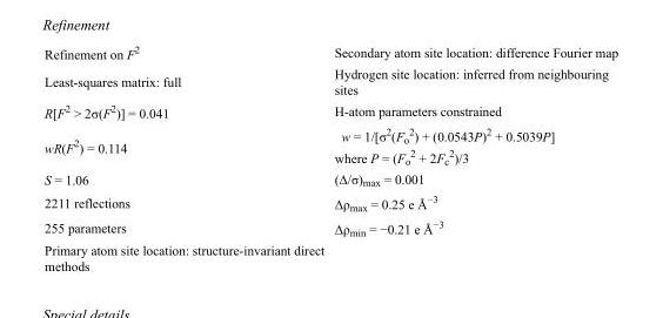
<table><tbody><tr><td>Refinement on F<sup>2</sup></td><td>Secondary atom site location: difference Fourier map</td></tr><tr><td>Least-squares matrix: full</td><td>Hydrogen site location: inferred from neighbouring sites</td></tr><tr><td>R[F<sup>2</sup> &gt; 2σ(F<sup>2</sup>)] = 0.041</td><td>H-atom parameters constrained</td></tr><tr><td>wR(F<sup>2</sup>) = 0.114</td><td>w = 1/[σ<sup>2</sup>(F<sub>o</sub> <sup>2</sup>) + (0.0543P)<sup>2</sup> + 0.5039P] where P = (F<sub>o</sub> <sup>2</sup> + 2F<sub>c</sub> <sup>2</sup>)/3</td></tr><tr><td>S = 1.06</td><td>(Δ/σ)<sub>max</sub> = 0.001</td></tr><tr><td>2211 reflections</td><td>Δρ<sub>max</sub> = 0.25 e Å<sup>−3</sup></td></tr><tr><td>255 parameters</td><td>Δρ<sub>min</sub> = −0.21 e Å<sup>−3</sup></td></tr><tr><td>Primary atom site location: structure-invariant direct methods</td><td></td></tr></tbody></table>